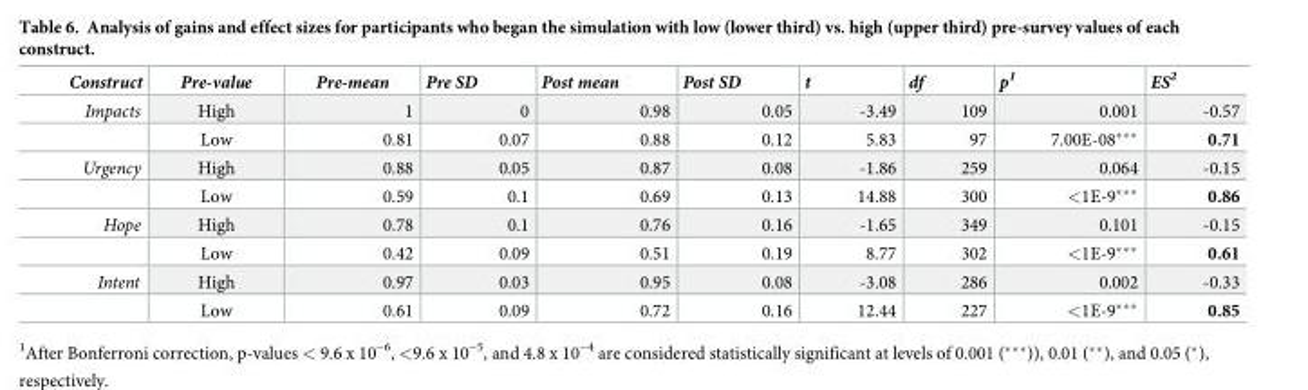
<table><thead><tr><td>Construct</td><td>Pre-value</td><td>Pre-mean</td><td>Pre SD</td><td>Post mean</td><td>Post SD</td><td>t</td><td>df</td><td>p<sup>1</sup></td><td>ES<sup>2</sup></td></tr></thead><tbody><tr><td rowspan="2">Impacts</td><td>High</td><td>1</td><td>0</td><td>0.98</td><td>0.05</td><td>-3.49</td><td>109</td><td>0.001</td><td>-0.57</td></tr><tr><td>Low</td><td>0.81</td><td>0.07</td><td>0.88</td><td>0.12</td><td>5.83</td><td>97</td><td>7.00E-08***</td><td>0.71</td></tr><tr><td rowspan="2">Urgency</td><td>High</td><td>0.88</td><td>0.05</td><td>0.87</td><td>0.08</td><td>-1.86</td><td>259</td><td>0.064</td><td>-0.15</td></tr><tr><td>Low</td><td>0.59</td><td>0.1</td><td>0.69</td><td>0.13</td><td>14.88</td><td>300</td><td>&lt;1E-9***</td><td>0.86</td></tr><tr><td rowspan="2">Hope</td><td>High</td><td>0.78</td><td>0.1</td><td>0.76</td><td>0.16</td><td>-1.65</td><td>349</td><td>0.101</td><td>-0.15</td></tr><tr><td>Low</td><td>0.42</td><td>0.09</td><td>0.51</td><td>0.19</td><td>8.77</td><td>302</td><td>&lt;1E-9***</td><td>0.61</td></tr><tr><td rowspan="2">Intent</td><td>High</td><td>0.97</td><td>0.03</td><td>0.95</td><td>0.08</td><td>-3.08</td><td>286</td><td>0.002</td><td>-0.33</td></tr><tr><td>Low</td><td>0.61</td><td>0.09</td><td>0.72</td><td>0.16</td><td>12.44</td><td>227</td><td>&lt;1E-9***</td><td>0.85</td></tr></tbody></table>